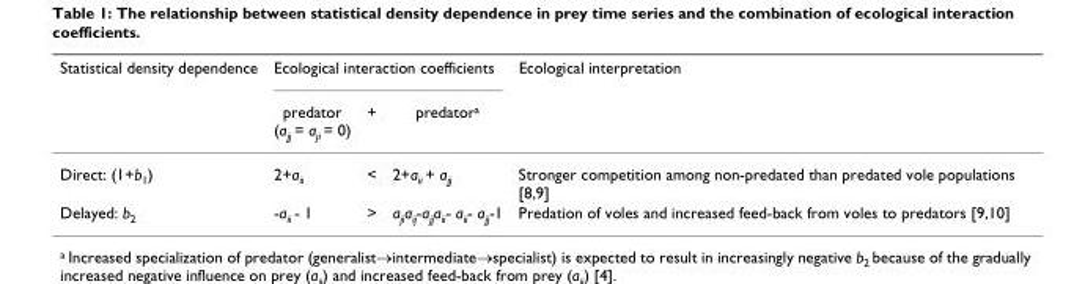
<table><thead><tr><td rowspan="2">Statistical density dependence</td><td colspan="3">Ecological interaction coefficients</td><td rowspan="2">Ecological interpretation</td></tr><tr><td>predator (a<sub>jj</sub> = a<sub>ji</sub> = 0)</td><td>+</td><td>predator<sup>a</sup></td></tr></thead><tbody><tr><td>Direct: (1+b<sub>1</sub>)</td><td>2+a<sub>ii</sub></td><td>&lt;</td><td>2+a<sub>ii</sub> + a<sub>jj</sub></td><td>Stronger competition among non-predated than predated vole populations [8,9]</td></tr><tr><td>Delayed: b<sub>2</sub></td><td>-a<sub>ii</sub> - 1</td><td>&gt;</td><td>a<sub>ji</sub>a<sub>ij</sub>-a<sub>jj</sub>a<sub>ii</sub>- a<sub>ii</sub>- a<sub>jj</sub>-1</td><td>Predation of voles and increased feed-back from voles to predators [9,10]</td></tr></tbody></table>